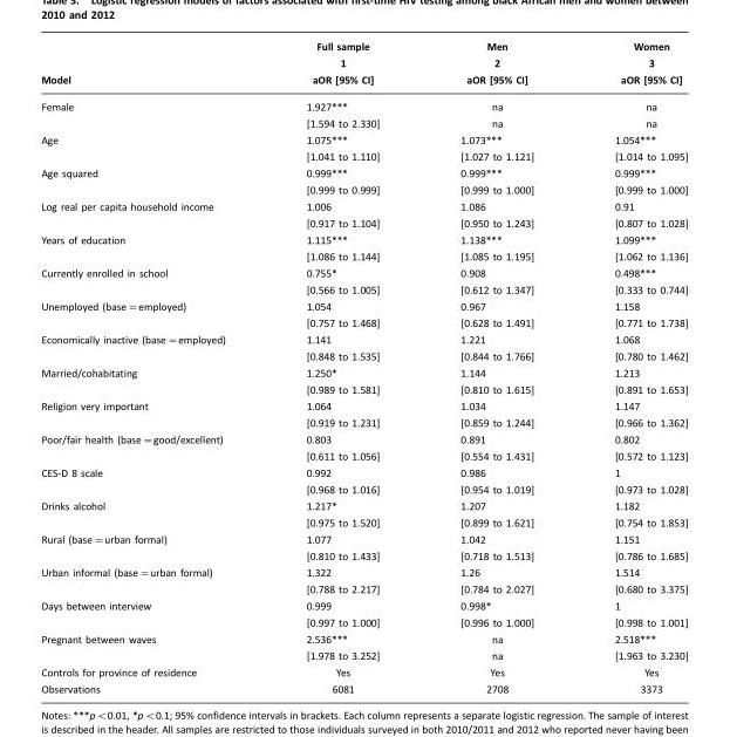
<table><thead><tr><td rowspan="3">Model</td><td rowspan="3">Full sample 1 aOR [95% CI]</td><td rowspan="3">Men 2 aOR [95% CI]</td><td rowspan="3">Women 3 aOR [95% CI]</td></tr><tr></tr><tr></tr></thead><tbody><tr><td rowspan="2">Female</td><td>1.927***</td><td>na</td><td>na</td></tr><tr><td>[1.594 to 2.330]</td><td>na</td><td>na</td></tr><tr><td rowspan="2">Age</td><td>1.075***</td><td>1.073***</td><td>1.054***</td></tr><tr><td>[1.041 to 1.110]</td><td>[1.027 to 1.121]</td><td>[1.014 to 1.095]</td></tr><tr><td rowspan="2">Age squared</td><td>0.999***</td><td>0.999***</td><td>0.999***</td></tr><tr><td>[0.999 to 0.999]</td><td>[0.999 to 1.000]</td><td>[0.999 to 1.000]</td></tr><tr><td rowspan="2">Log real per capita household income</td><td>1.006</td><td>1.086</td><td>0.91</td></tr><tr><td>[0.917 to 1.104]</td><td>[0.950 to 1.243]</td><td>[0.807 to 1.028]</td></tr><tr><td rowspan="2">Years of education</td><td>1.115***</td><td>1.138***</td><td>1.099***</td></tr><tr><td>[1.086 to 1.144]</td><td>[1.085 to 1.195]</td><td>[1.062 to 1.136]</td></tr><tr><td rowspan="2">Currently enrolled in school</td><td>0.755*</td><td>0.908</td><td>0.498***</td></tr><tr><td>[0.566 to 1.005]</td><td>[0.612 to 1.347]</td><td>[0.333 to 0.744]</td></tr><tr><td rowspan="2">Unemployed (base=employed)</td><td>1.054</td><td>0.967</td><td>1.158</td></tr><tr><td>[0.757 to 1.468]</td><td>[0.628 to 1.491]</td><td>[0.771 to 1.738]</td></tr><tr><td rowspan="2">Economically inactive (base=employed)</td><td>1.141</td><td>1.221</td><td>1.068</td></tr><tr><td>[0.848 to 1.535]</td><td>[0.844 to 1.766]</td><td>[0.780 to 1.462]</td></tr><tr><td rowspan="2">Married/cohabitating</td><td>1.250*</td><td>1.144</td><td>1.213</td></tr><tr><td>[0.989 to 1.581]</td><td>[0.810 to 1.615]</td><td>[0.891 to 1.653]</td></tr><tr><td rowspan="2">Religion very important</td><td>1.064</td><td>1.034</td><td>1.147</td></tr><tr><td>[0.919 to 1.231]</td><td>[0.859 to 1.244]</td><td>[0.966 to 1.362]</td></tr><tr><td rowspan="2">Poor/fair health (base=good/excellent)</td><td>0.803</td><td>0.891</td><td>0.802</td></tr><tr><td>[0.611 to 1.056]</td><td>[0.554 to 1.431]</td><td>[0.572 to 1.123]</td></tr><tr><td rowspan="2">CES-D 8 scale</td><td>0.992</td><td>0.986</td><td>1</td></tr><tr><td>[0.968 to 1.016]</td><td>[0.954 to 1.019]</td><td>[0.973 to 1.028]</td></tr><tr><td rowspan="2">Drinks alcohol</td><td>1.217*</td><td>1.207</td><td>1.182</td></tr><tr><td>[0.975 to 1.520]</td><td>[0.899 to 1.621]</td><td>[0.754 to 1.853]</td></tr><tr><td rowspan="2">Rural (base=urban formal)</td><td>1.077</td><td>1.042</td><td>1.151</td></tr><tr><td>[0.810 to 1.433]</td><td>[0.718 to 1.513]</td><td>[0.786 to 1.685]</td></tr><tr><td rowspan="2">Urban informal (base=urban formal)</td><td>1.322</td><td>1.26</td><td>1.514</td></tr><tr><td>[0.788 to 2.217]</td><td>[0.784 to 2.027]</td><td>[0.680 to 3.375]</td></tr><tr><td rowspan="2">Days between interview</td><td>0.999</td><td>0.998*</td><td>1</td></tr><tr><td>[0.997 to 1.000]</td><td>[0.996 to 1.000]</td><td>[0.998 to 1.001]</td></tr><tr><td rowspan="2">Pregnant between waves</td><td>2.536***</td><td>na</td><td>2.518***</td></tr><tr><td>[1.978 to 3.252]</td><td>na</td><td>[1.963 to 3.230]</td></tr><tr><td>Controls for province of residence</td><td>Yes</td><td>Yes</td><td>Yes</td></tr><tr><td>Observations</td><td>6081</td><td>2708</td><td>3373</td></tr></tbody></table>